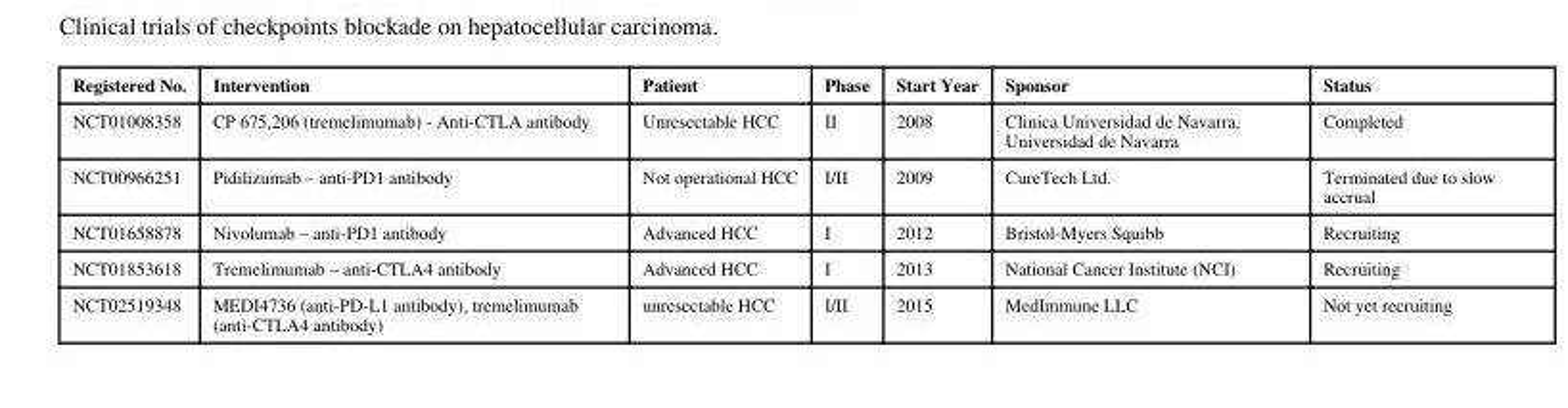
<table><thead><tr><td>Registered No.</td><td>Intervention</td><td>Patient</td><td>Phase</td><td>Start Year</td><td>Sponsor</td><td>Status</td></tr></thead><tbody><tr><td>NCT01008358</td><td>CP 675,206 (tremelimumab) - Anti-CTLA antibody</td><td>Unresectable HCC</td><td>II</td><td>2008</td><td>Clinica Universidad de Navarra, Universidad de Navarra</td><td>Completed</td></tr><tr><td>NCT00966251</td><td>Pidilizumab – anti-PD1 antibody</td><td>Not operational HCC</td><td>I/II</td><td>2009</td><td>CureTech Ltd.</td><td>Terminated due to slow accrual</td></tr><tr><td>NCT01658878</td><td>Nivolumab – anti-PD1 antibody</td><td>Advanced HCC</td><td>I</td><td>2012</td><td>Bristol-Myers Squibb</td><td>Recruiting</td></tr><tr><td>NCT01853618</td><td>Tremelimumab – anti-CTLA4 antibody</td><td>Advanced HCC</td><td>I</td><td>2013</td><td>National Cancer Institute (NCI)</td><td>Recruiting</td></tr><tr><td>NCT02519348</td><td>MEDI4736 (anti-PD-L1 antibody), tremelimumab (anti-CTLA4 antibody)</td><td>unresectable HCC</td><td>I/II</td><td>2015</td><td>MedImmune LLC</td><td>Not yet recruiting</td></tr></tbody></table>